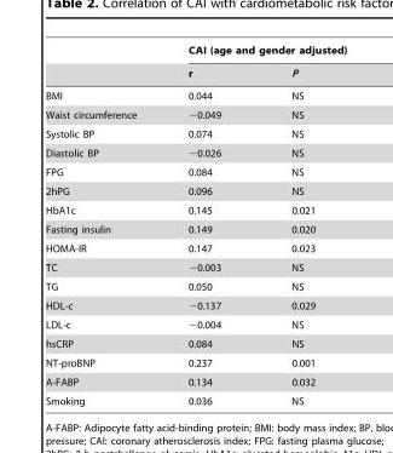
<table><thead><tr><td rowspan="2"></td><td colspan="2">CAI (age and gender adjusted)</td></tr><tr><td>r</td><td>P</td></tr></thead><tbody><tr><td>BMI</td><td>0.044</td><td>NS</td></tr><tr><td>Waist circumference</td><td>−0.049</td><td>NS</td></tr><tr><td>Systolic BP</td><td>0.074</td><td>NS</td></tr><tr><td>Diastolic BP</td><td>−0.026</td><td>NS</td></tr><tr><td>FPG</td><td>0.084</td><td>NS</td></tr><tr><td>2hPG</td><td>0.096</td><td>NS</td></tr><tr><td>HbA1c</td><td>0.145</td><td>0.021</td></tr><tr><td>Fasting insulin</td><td>0.149</td><td>0.020</td></tr><tr><td>HOMA-IR</td><td>0.147</td><td>0.023</td></tr><tr><td>TC</td><td>−0.003</td><td>NS</td></tr><tr><td>TG</td><td>0.050</td><td>NS</td></tr><tr><td>HDL-c</td><td>−0.137</td><td>0.029</td></tr><tr><td>LDL-c</td><td>−0.004</td><td>NS</td></tr><tr><td>hsCRP</td><td>0.084</td><td>NS</td></tr><tr><td>NT-proBNP</td><td>0.237</td><td>0.001</td></tr><tr><td>A-FABP</td><td>0.134</td><td>0.032</td></tr><tr><td>Smoking</td><td>0.036</td><td>NS</td></tr></tbody></table>